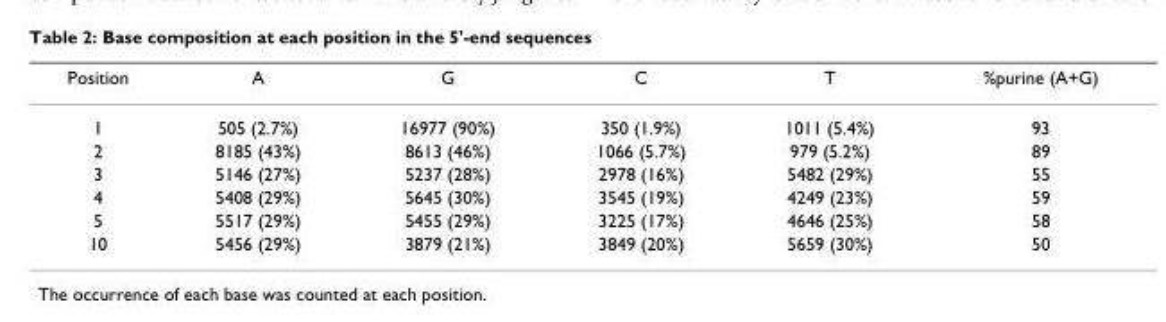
<table><thead><tr><td>Position</td><td>A</td><td>G</td><td>C</td><td>T</td><td>%purine (A+G)</td></tr></thead><tbody><tr><td>1</td><td>505 (2.7%)</td><td>16977 (90%)</td><td>350 (1.9%)</td><td>1011 (5.4%)</td><td>93</td></tr><tr><td>2</td><td>8185 (43%)</td><td>8613 (46%)</td><td>1066 (5.7%)</td><td>979 (5.2%)</td><td>89</td></tr><tr><td>3</td><td>5146 (27%)</td><td>5237 (28%)</td><td>2978 (16%)</td><td>5482 (29%)</td><td>55</td></tr><tr><td>4</td><td>5408 (29%)</td><td>5645 (30%)</td><td>3545 (19%)</td><td>4249 (23%)</td><td>59</td></tr><tr><td>5</td><td>5517 (29%)</td><td>5455 (29%)</td><td>3225 (17%)</td><td>4646 (25%)</td><td>58</td></tr><tr><td>10</td><td>5456 (29%)</td><td>3879 (21%)</td><td>3849 (20%)</td><td>5659 (30%)</td><td>50</td></tr></tbody></table>